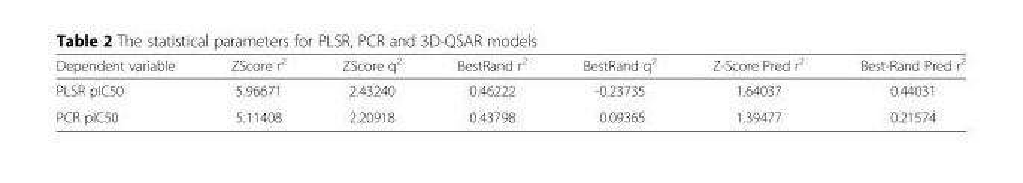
<table><thead><tr><td>Dependent variable</td><td>ZScore r<sup>2</sup></td><td>ZScore q<sup>2</sup></td><td>BestRand r<sup>2</sup></td><td>BestRand q<sup>2</sup></td><td>Z-Score Pred r<sup>2</sup></td><td>Best-Rand Pred r<sup>2</sup></td></tr></thead><tbody><tr><td>PLSR pIC50</td><td>5.96671</td><td>2.43240</td><td>0.46222</td><td>-0.23735</td><td>1.64037</td><td>0.44031</td></tr><tr><td>PCR pIC50</td><td>5.11408</td><td>2.20918</td><td>0.43798</td><td>0.09365</td><td>1.39477</td><td>0.21574</td></tr></tbody></table>